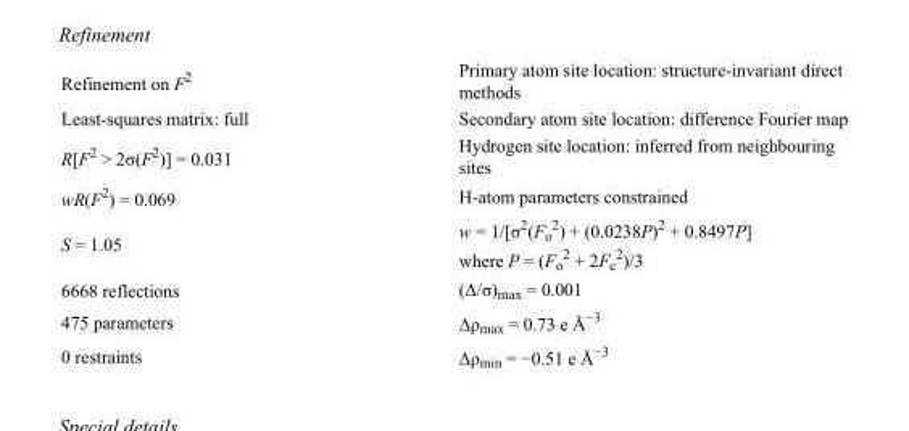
<table><tbody><tr><td>Refinement on F<sup>2</sup></td><td>Primary atom site location: structure-invariant direct methods</td></tr><tr><td>Least-squares matrix: full</td><td>Secondary atom site location: difference Fourier map</td></tr><tr><td>R[F<sup>2</sup> &gt; 2σ(F<sup>2</sup>)] = 0.031</td><td>Hydrogen site location: inferred from neighbouring sites</td></tr><tr><td>wR(F<sup>2</sup>) = 0.069</td><td>H-atom parameters constrained</td></tr><tr><td>S = 1.05</td><td>w = 1/[σ<sup>2</sup>(F<sub>o</sub> <sup>2</sup>) + (0.0238P)<sup>2</sup> + 0.8497P] where P = (F<sub>o</sub> <sup>2</sup> + 2F<sub>c</sub> <sup>2</sup>)/3</td></tr><tr><td>6668 reflections</td><td>(Δ/σ)<sub>max</sub> = 0.001</td></tr><tr><td>475 parameters</td><td>Δρ<sub>max</sub> = 0.73 e Å<sup>−3</sup></td></tr><tr><td>0 restraints</td><td>Δρ<sub>min</sub> = −0.51 e Å<sup>−3</sup></td></tr></tbody></table>